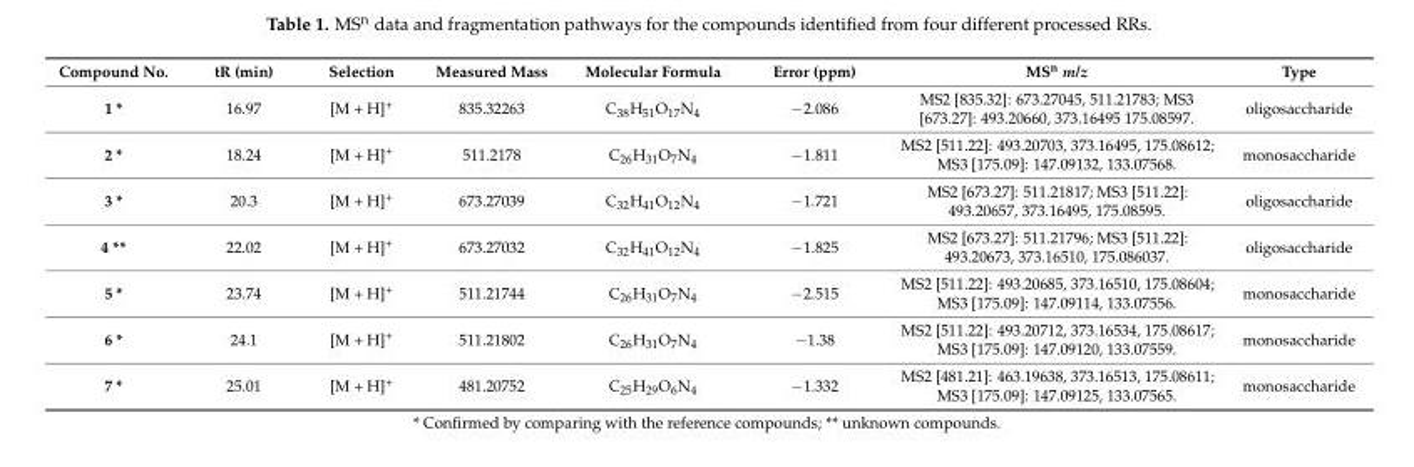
<table><thead><tr><td>Compound No.</td><td>tR (min)</td><td>Selection</td><td>Measured Mass</td><td>Molecular Formula</td><td>Error (ppm)</td><td>MS<sup>n</sup> m/z</td><td>Type</td></tr></thead><tbody><tr><td>1 *</td><td>16.97</td><td>[M + H]<sup>+</sup></td><td>835.32263</td><td>C<sub>38</sub>H<sub>51</sub>O<sub>17</sub>N<sub>4</sub></td><td>−2.086</td><td>MS2 [835.32]: 673.27045, 511.21783; MS3 [673.27]: 493.20660, 373.16495 175.08597.</td><td>oligosaccharide</td></tr><tr><td>2 *</td><td>18.24</td><td>[M + H]<sup>+</sup></td><td>511.2178</td><td>C<sub>26</sub>H<sub>31</sub>O<sub>7</sub>N<sub>4</sub></td><td>−1.811</td><td>MS2 [511.22]: 493.20703, 373.16495, 175.08612; MS3 [175.09]: 147.09132, 133.07568.</td><td>monosaccharide</td></tr><tr><td>3 *</td><td>20.3</td><td>[M + H]<sup>+</sup></td><td>673.27039</td><td>C<sub>32</sub>H<sub>41</sub>O<sub>12</sub>N<sub>4</sub></td><td>−1.721</td><td>MS2 [673.27]: 511.21817; MS3 [511.22]: 493.20657, 373.16495, 175.08595.</td><td>oligosaccharide</td></tr><tr><td>4 **</td><td>22.02</td><td>[M + H]<sup>+</sup></td><td>673.27032</td><td>C<sub>32</sub>H<sub>41</sub>O<sub>12</sub>N<sub>4</sub></td><td>−1.825</td><td>MS2 [673.27]: 511.21796; MS3 [511.22]: 493.20673, 373.16510, 175.086037.</td><td>oligosaccharide</td></tr><tr><td>5 *</td><td>23.74</td><td>[M + H]<sup>+</sup></td><td>511.21744</td><td>C<sub>26</sub>H<sub>31</sub>O<sub>7</sub>N<sub>4</sub></td><td>−2.515</td><td>MS2 [511.22]: 493.20685, 373.16510, 175.08604; MS3 [175.09]: 147.09114, 133.07556.</td><td>monosaccharide</td></tr><tr><td>6 *</td><td>24.1</td><td>[M + H]<sup>+</sup></td><td>511.21802</td><td>C<sub>26</sub>H<sub>31</sub>O<sub>7</sub>N<sub>4</sub></td><td>−1.38</td><td>MS2 [511.22]: 493.20712, 373.16534, 175.08617; MS3 [175.09]: 147.09120, 133.07559.</td><td>monosaccharide</td></tr><tr><td>7 *</td><td>25.01</td><td>[M + H]<sup>+</sup></td><td>481.20752</td><td>C<sub>25</sub>H<sub>29</sub>O<sub>6</sub>N<sub>4</sub></td><td>−1.332</td><td>MS2 [481.21]: 463.19638, 373.16513, 175.08611; MS3 [175.09]: 147.09125, 133.07565.</td><td>monosaccharide</td></tr></tbody></table>